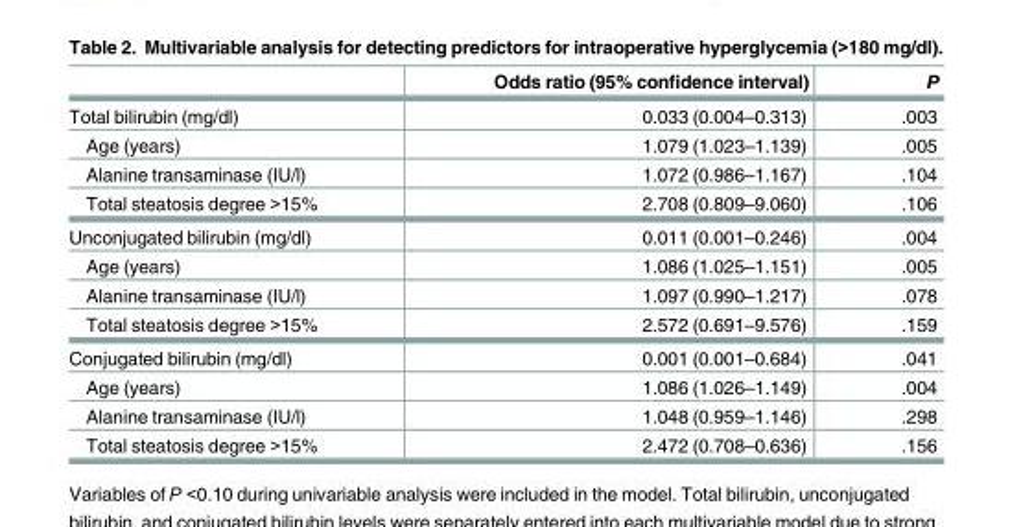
<table><thead><tr><td></td><td>Odds ratio (95% confidence interval)</td><td>P</td></tr></thead><tbody><tr><td>Total bilirubin (mg/dl)</td><td>0.033 (0.004–0.313)</td><td>.003</td></tr><tr><td>Age (years)</td><td>1.079 (1.023–1.139)</td><td>.005</td></tr><tr><td>Alanine transaminase (IU/l)</td><td>1.072 (0.986–1.167)</td><td>.104</td></tr><tr><td>Total steatosis degree &gt;15%</td><td>2.708 (0.809–9.060)</td><td>.106</td></tr><tr><td>Unconjugated bilirubin (mg/dl)</td><td>0.011 (0.001–0.246)</td><td>.004</td></tr><tr><td>Age (years)</td><td>1.086 (1.025–1.151)</td><td>.005</td></tr><tr><td>Alanine transaminase (IU/l)</td><td>1.097 (0.990–1.217)</td><td>.078</td></tr><tr><td>Total steatosis degree &gt;15%</td><td>2.572 (0.691–9.576)</td><td>.159</td></tr><tr><td>Conjugated bilirubin (mg/dl)</td><td>0.001 (0.001–0.684)</td><td>.041</td></tr><tr><td>Age (years)</td><td>1.086 (1.026–1.149)</td><td>.004</td></tr><tr><td>Alanine transaminase (IU/l)</td><td>1.048 (0.959–1.146)</td><td>.298</td></tr><tr><td>Total steatosis degree &gt;15%</td><td>2.472 (0.708–0.636)</td><td>.156</td></tr></tbody></table>